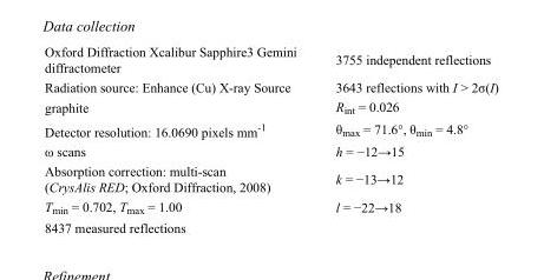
<table><tbody><tr><td>Oxford Diffraction Xcalibur Sapphire3 Gemini diffractometer</td><td>3755 independent reflections</td></tr><tr><td>Radiation source: Enhance (Cu) X-ray Source</td><td>3643 reflections with I &gt; 2σ(I)</td></tr><tr><td>graphite</td><td>R<sub>int</sub> = 0.026</td></tr><tr><td>Detector resolution: 16.0690 pixels mm<sup>-1</sup></td><td>θ<sub>max</sub> = 71.6°, θ<sub>min</sub> = 4.8°</td></tr><tr><td>ω scans</td><td>h = −12→15</td></tr><tr><td>Absorption correction: multi-scan (CrysAlis RED; Oxford Diffraction, 2008)</td><td>k = −13→12</td></tr><tr><td>T<sub>min</sub> = 0.702, T<sub>max</sub> = 1.00</td><td>l = −22→18</td></tr><tr><td>8437 measured reflections</td><td></td></tr></tbody></table>